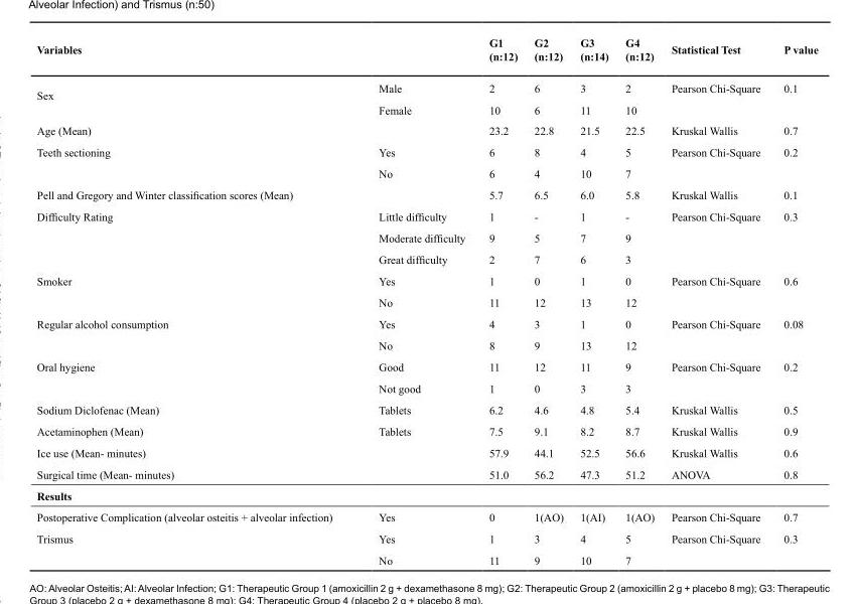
<table><thead><tr><td>Variables</td><td></td><td>G1 (n:12)</td><td>G2 (n:12)</td><td>G3 (n:14)</td><td>G4 (n:12)</td><td>Statistical Test</td><td>P value</td></tr></thead><tbody><tr><td rowspan="2">Sex</td><td>Male</td><td>2</td><td>6</td><td>3</td><td>2</td><td>Pearson Chi-Square</td><td>0.1</td></tr><tr><td>Female</td><td>10</td><td>6</td><td>11</td><td>10</td><td></td><td></td></tr><tr><td>Age (Mean)</td><td></td><td>23.2</td><td>22.8</td><td>21.5</td><td>22.5</td><td>Kruskal Wallis</td><td>0.7</td></tr><tr><td rowspan="2">Teeth sectioning</td><td>Yes</td><td>6</td><td>8</td><td>4</td><td>5</td><td>Pearson Chi-Square</td><td>0.2</td></tr><tr><td>No</td><td>6</td><td>4</td><td>10</td><td>7</td><td></td><td></td></tr><tr><td>Pell and Gregory and Winter classification scores (Mean)</td><td></td><td>5.7</td><td>6.5</td><td>6.0</td><td>5.8</td><td>Kruskal Wallis</td><td>0.1</td></tr><tr><td rowspan="3">Difficulty Rating</td><td>Little difficulty</td><td>1</td><td>-</td><td>1</td><td>-</td><td>Pearson Chi-Square</td><td>0.3</td></tr><tr><td>Moderate difficulty</td><td>9</td><td>5</td><td>7</td><td>9</td><td></td><td></td></tr><tr><td>Great difficulty</td><td>2</td><td>7</td><td>6</td><td>3</td><td></td><td></td></tr><tr><td rowspan="2">Smoker</td><td>Yes</td><td>1</td><td>0</td><td>1</td><td>0</td><td>Pearson Chi-Square</td><td>0.6</td></tr><tr><td>No</td><td>11</td><td>12</td><td>13</td><td>12</td><td></td><td></td></tr><tr><td rowspan="2">Regular alcohol consumption</td><td>Yes</td><td>4</td><td>3</td><td>1</td><td>0</td><td>Pearson Chi-Square</td><td>0.08</td></tr><tr><td>No</td><td>8</td><td>9</td><td>13</td><td>12</td><td></td><td></td></tr><tr><td rowspan="2">Oral hygiene</td><td>Good</td><td>11</td><td>12</td><td>11</td><td>9</td><td>Pearson Chi-Square</td><td>0.2</td></tr><tr><td>Not good</td><td>1</td><td>0</td><td>3</td><td>3</td><td></td><td></td></tr><tr><td>Sodium Diclofenac (Mean)</td><td>Tablets</td><td>6.2</td><td>4.6</td><td>4.8</td><td>5.4</td><td>Kruskal Wallis</td><td>0.5</td></tr><tr><td>Acetaminophen (Mean)</td><td>Tablets</td><td>7.5</td><td>9.1</td><td>8.2</td><td>8.7</td><td>Kruskal Wallis</td><td>0.9</td></tr><tr><td>Ice use (Mean- minutes)</td><td></td><td>57.9</td><td>44.1</td><td>52.5</td><td>56.6</td><td>Kruskal Wallis</td><td>0.6</td></tr><tr><td>Surgical time (Mean- minutes)</td><td></td><td>51.0</td><td>56.2</td><td>47.3</td><td>51.2</td><td>ANOVA</td><td>0.8</td></tr><tr><td colspan="8">Results</td></tr><tr><td>Postoperative Complication (alveolar osteitis + alveolar infection)</td><td>Yes</td><td>0</td><td>1(AO)</td><td>1(AI)</td><td>1(AO)</td><td>Pearson Chi-Square</td><td>0.7</td></tr><tr><td rowspan="2">Trismus</td><td>Yes</td><td>1</td><td>3</td><td>4</td><td>5</td><td>Pearson Chi-Square</td><td>0.3</td></tr><tr><td>No</td><td>11</td><td>9</td><td>10</td><td>7</td><td></td><td></td></tr></tbody></table>